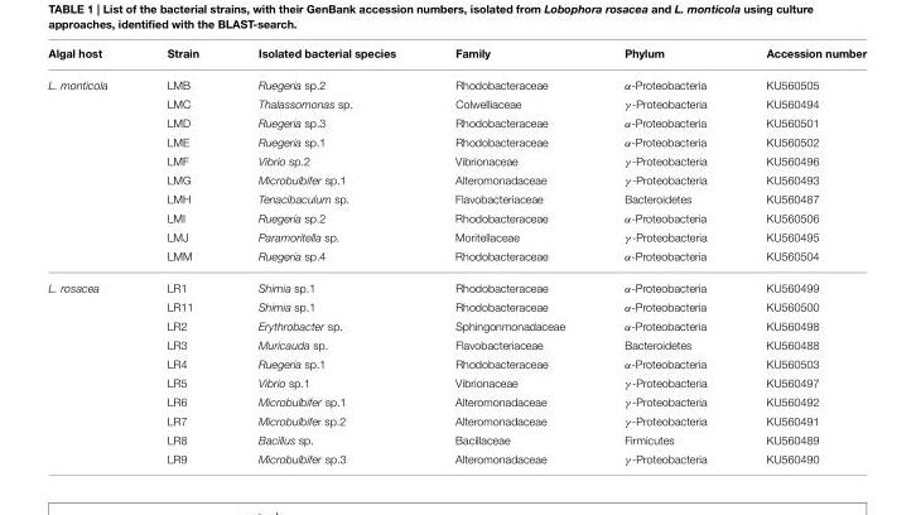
<table><thead><tr><td>Algal host</td><td>Strain</td><td>Isolated bacterial species</td><td>Family</td><td>Phylum</td><td>Accession number</td></tr></thead><tbody><tr><td rowspan="10">L. monticola</td><td>LMB</td><td>Ruegeria sp.2</td><td>Rhodobacteraceae</td><td>α-Proteobacteria</td><td>KU560505</td></tr><tr><td>LMC</td><td>Thalassomonas sp.</td><td>Colwelliaceae</td><td>γ -Proteobacteria</td><td>KU560494</td></tr><tr><td>LMD</td><td>Ruegeria sp.3</td><td>Rhodobacteraceae</td><td>α-Proteobacteria</td><td>KU560501</td></tr><tr><td>LME</td><td>Ruegeria sp.1</td><td>Rhodobacteraceae</td><td>α-Proteobacteria</td><td>KU560502</td></tr><tr><td>LMF</td><td>Vibrio sp.2</td><td>Vibrionaceae</td><td>γ -Proteobacteria</td><td>KU560496</td></tr><tr><td>LMG</td><td>Microbulbifer sp.1</td><td>Alteromonadaceae</td><td>γ -Proteobacteria</td><td>KU560493</td></tr><tr><td>LMH</td><td>Tenacibaculum sp.</td><td>Flavobacteriaceae</td><td>Bacteroidetes</td><td>KU560487</td></tr><tr><td>LMI</td><td>Ruegeria sp.2</td><td>Rhodobacteraceae</td><td>α-Proteobacteria</td><td>KU560506</td></tr><tr><td>LMJ</td><td>Paramoritella sp.</td><td>Moritellaceae</td><td>γ -Proteobacteria</td><td>KU560495</td></tr><tr><td>LMM</td><td>Ruegeria sp.4</td><td>Rhodobacteraceae</td><td>α-Proteobacteria</td><td>KU560504</td></tr><tr><td rowspan="10">L. rosacea</td><td>LR1</td><td>Shimia sp.1</td><td>Rhodobacteraceae</td><td>α-Proteobacteria</td><td>KU560499</td></tr><tr><td>LR11</td><td>Shimia sp.1</td><td>Rhodobacteraceae</td><td>α-Proteobacteria</td><td>KU560500</td></tr><tr><td>LR2</td><td>Erythrobacter sp.</td><td>Sphingonmonadaceae</td><td>α-Proteobacteria</td><td>KU560498</td></tr><tr><td>LR3</td><td>Muricauda sp.</td><td>Flavobacteriaceae</td><td>Bacteroidetes</td><td>KU560488</td></tr><tr><td>LR4</td><td>Ruegeria sp.1</td><td>Rhodobacteraceae</td><td>α-Proteobacteria</td><td>KU560503</td></tr><tr><td>LR5</td><td>Vibrio sp.1</td><td>Vibrionaceae</td><td>γ -Proteobacteria</td><td>KU560497</td></tr><tr><td>LR6</td><td>Microbulbifer sp.1</td><td>Alteromonadaceae</td><td>γ -Proteobacteria</td><td>KU560492</td></tr><tr><td>LR7</td><td>Microbulbifer sp.2</td><td>Alteromonadaceae</td><td>γ -Proteobacteria</td><td>KU560491</td></tr><tr><td>LR8</td><td>Bacillus sp.</td><td>Bacillaceae</td><td>Firmicutes</td><td>KU560489</td></tr><tr><td>LR9</td><td>Microbulbifer sp.3</td><td>Alteromonadaceae</td><td>γ -Proteobacteria</td><td>KU560490</td></tr></tbody></table>